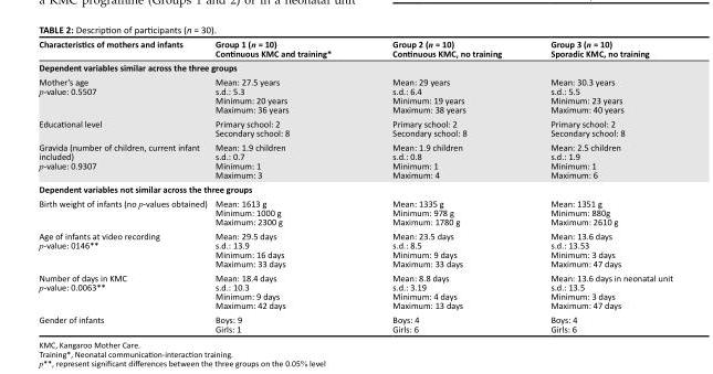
<table><thead><tr><td>Characteristics of mothers and infants</td><td>Group 1 (n = 10) Continuous KMC and training*</td><td>Group 2 (n = 10) Continuous KMC, no training</td><td>Group 3 (n = 10) Sporadic KMC, no training</td></tr></thead><tbody><tr><td colspan="4">Dependent variables similar across the three groups</td></tr><tr><td>Mother’s age p-value: 0.5507</td><td>Mean: 27.5 years s.d.: 5.3 Minimum: 20 years Maximum: 36 years</td><td>Mean: 29 years s.d.: 6.4 Minimum: 19 years Maximum: 38 years</td><td>Mean: 30.3 years s.d.: 5.5 Minimum: 23 years Maximum: 40 years</td></tr><tr><td>Educational level</td><td>Primary school: 2 Secondary school: 8</td><td>Primary school: 2 Secondary school: 8</td><td>Primary school: 2 Secondary school: 8</td></tr><tr><td>Gravida (number of children, current infant included) p-value: 0.9307</td><td>Mean: 1.9 children s.d.: 0.7 Minimum: 1 Maximum: 3</td><td>Mean: 1.9 children s.d.: 0.8 Minimum: 1 Maximum: 4</td><td>Mean: 2.5 children s.d.: 1.9 Minimum: 1 Maximum: 6</td></tr><tr><td colspan="4">Dependent variables not similar across the three groups</td></tr><tr><td>Birth weight of infants (no p-values obtained)</td><td>Mean: 1613 g Minimum: 1000 g Maximum: 2300 g</td><td>Mean: 1335 g Minimum: 978 g Maximum: 1780 g</td><td>Mean: 1351 g Minimum: 880g Maximum: 2610 g</td></tr><tr><td>Age of infants at video recording p-value: 0146**</td><td>Mean: 29.5 days s.d.: 13.9 Minimum: 16 days Maximum: 33 days</td><td>Mean: 23.5 days s.d.: 8.5 Minimum: 9 days Maximum: 33 days</td><td>Mean: 13.6 days s.d.: 13.53 Minimum: 3 days Maximum: 47 days</td></tr><tr><td>Number of days in KMC p-value: 0.0063**</td><td>Mean: 18.4 days s.d.: 10.3 Minimum: 9 days Maximum: 42 days</td><td>Mean: 8.8 days s.d.: 3.19 Minimum: 4 days Maximum: 13 days</td><td>Mean: 13.6 days in neonatal unit s.d.: 13.5 Minimum: 3 days Maximum: 47 days</td></tr><tr><td>Gender of infants</td><td>Boys: 9 Girls: 1</td><td>Boys: 4 Girls: 6</td><td>Boys: 4 Girls: 6</td></tr></tbody></table>